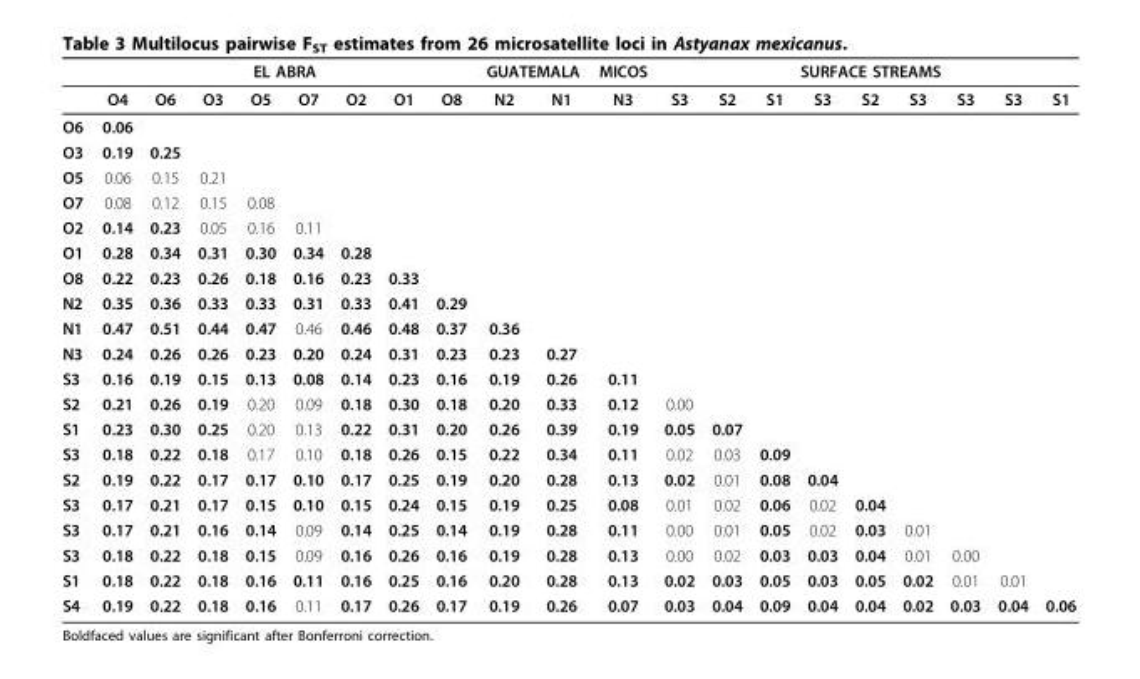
<table><thead><tr><td rowspan="2"></td><td colspan="8">EL ABRA</td><td colspan="2">GUATEMALA</td><td rowspan="2">MICOS N3</td><td colspan="9">SURFACE STREAMS</td></tr><tr><td>O4</td><td>O6</td><td>O3</td><td>O5</td><td>O7</td><td>O2</td><td>O1</td><td>O8</td><td>N2</td><td>N1</td><td>S3</td><td>S2</td><td>S1</td><td>S3</td><td>S2</td><td>S3</td><td>S3</td><td>S3</td><td>S1</td></tr></thead><tbody><tr><td>O6</td><td>0.06</td><td></td><td></td><td></td><td></td><td></td><td></td><td></td><td></td><td></td><td></td><td></td><td></td><td></td><td></td><td></td><td></td><td></td><td></td><td></td></tr><tr><td>O3</td><td>0.19</td><td>0.25</td><td></td><td></td><td></td><td></td><td></td><td></td><td></td><td></td><td></td><td></td><td></td><td></td><td></td><td></td><td></td><td></td><td></td><td></td></tr><tr><td>O5</td><td>0.06</td><td>0.15</td><td>0.21</td><td></td><td></td><td></td><td></td><td></td><td></td><td></td><td></td><td></td><td></td><td></td><td></td><td></td><td></td><td></td><td></td><td></td></tr><tr><td>O7</td><td>0.08</td><td>0.12</td><td>0.15</td><td>0.08</td><td></td><td></td><td></td><td></td><td></td><td></td><td></td><td></td><td></td><td></td><td></td><td></td><td></td><td></td><td></td><td></td></tr><tr><td>O2</td><td>0.14</td><td>0.23</td><td>0.05</td><td>0.16</td><td>0.11</td><td></td><td></td><td></td><td></td><td></td><td></td><td></td><td></td><td></td><td></td><td></td><td></td><td></td><td></td><td></td></tr><tr><td>O1</td><td>0.28</td><td>0.34</td><td>0.31</td><td>0.30</td><td>0.34</td><td>0.28</td><td></td><td></td><td></td><td></td><td></td><td></td><td></td><td></td><td></td><td></td><td></td><td></td><td></td><td></td></tr><tr><td>O8</td><td>0.22</td><td>0.23</td><td>0.26</td><td>0.18</td><td>0.16</td><td>0.23</td><td>0.33</td><td></td><td></td><td></td><td></td><td></td><td></td><td></td><td></td><td></td><td></td><td></td><td></td><td></td></tr><tr><td>N2</td><td>0.35</td><td>0.36</td><td>0.33</td><td>0.33</td><td>0.31</td><td>0.33</td><td>0.41</td><td>0.29</td><td></td><td></td><td></td><td></td><td></td><td></td><td></td><td></td><td></td><td></td><td></td><td></td></tr><tr><td>N1</td><td>0.47</td><td>0.51</td><td>0.44</td><td>0.47</td><td>0.46</td><td>0.46</td><td>0.48</td><td>0.37</td><td>0.36</td><td></td><td></td><td></td><td></td><td></td><td></td><td></td><td></td><td></td><td></td><td></td></tr><tr><td>N3</td><td>0.24</td><td>0.26</td><td>0.26</td><td>0.23</td><td>0.20</td><td>0.24</td><td>0.31</td><td>0.23</td><td>0.23</td><td>0.27</td><td></td><td></td><td></td><td></td><td></td><td></td><td></td><td></td><td></td><td></td></tr><tr><td>S3</td><td>0.16</td><td>0.19</td><td>0.15</td><td>0.13</td><td>0.08</td><td>0.14</td><td>0.23</td><td>0.16</td><td>0.19</td><td>0.26</td><td>0.11</td><td></td><td></td><td></td><td></td><td></td><td></td><td></td><td></td><td></td></tr><tr><td>S2</td><td>0.21</td><td>0.26</td><td>0.19</td><td>0.20</td><td>0.09</td><td>0.18</td><td>0.30</td><td>0.18</td><td>0.20</td><td>0.33</td><td>0.12</td><td>0.00</td><td></td><td></td><td></td><td></td><td></td><td></td><td></td><td></td></tr><tr><td>S1</td><td>0.23</td><td>0.30</td><td>0.25</td><td>0.20</td><td>0.13</td><td>0.22</td><td>0.31</td><td>0.20</td><td>0.26</td><td>0.39</td><td>0.19</td><td>0.05</td><td>0.07</td><td></td><td></td><td></td><td></td><td></td><td></td><td></td></tr><tr><td>S3</td><td>0.18</td><td>0.22</td><td>0.18</td><td>0.17</td><td>0.10</td><td>0.18</td><td>0.26</td><td>0.15</td><td>0.22</td><td>0.34</td><td>0.11</td><td>0.02</td><td>0.03</td><td>0.09</td><td></td><td></td><td></td><td></td><td></td><td></td></tr><tr><td>S2</td><td>0.19</td><td>0.22</td><td>0.17</td><td>0.17</td><td>0.10</td><td>0.17</td><td>0.25</td><td>0.19</td><td>0.20</td><td>0.28</td><td>0.13</td><td>0.02</td><td>0.01</td><td>0.08</td><td>0.04</td><td></td><td></td><td></td><td></td><td></td></tr><tr><td>S3</td><td>0.17</td><td>0.21</td><td>0.17</td><td>0.15</td><td>0.10</td><td>0.15</td><td>0.24</td><td>0.15</td><td>0.19</td><td>0.25</td><td>0.08</td><td>0.01</td><td>0.02</td><td>0.06</td><td>0.02</td><td>0.04</td><td></td><td></td><td></td><td></td></tr><tr><td>S3</td><td>0.17</td><td>0.21</td><td>0.16</td><td>0.14</td><td>0.09</td><td>0.14</td><td>0.25</td><td>0.14</td><td>0.19</td><td>0.28</td><td>0.11</td><td>0.00</td><td>0.01</td><td>0.05</td><td>0.02</td><td>0.03</td><td>0.01</td><td></td><td></td><td></td></tr><tr><td>S3</td><td>0.18</td><td>0.22</td><td>0.18</td><td>0.15</td><td>0.09</td><td>0.16</td><td>0.26</td><td>0.16</td><td>0.19</td><td>0.28</td><td>0.13</td><td>0.00</td><td>0.02</td><td>0.03</td><td>0.03</td><td>0.04</td><td>0.01</td><td>0.00</td><td></td><td></td></tr><tr><td>S1</td><td>0.18</td><td>0.22</td><td>0.18</td><td>0.16</td><td>0.11</td><td>0.16</td><td>0.25</td><td>0.16</td><td>0.20</td><td>0.28</td><td>0.13</td><td>0.02</td><td>0.03</td><td>0.05</td><td>0.03</td><td>0.05</td><td>0.02</td><td>0.01</td><td>0.01</td><td></td></tr><tr><td>S4</td><td>0.19</td><td>0.22</td><td>0.18</td><td>0.16</td><td>0.11</td><td>0.17</td><td>0.26</td><td>0.17</td><td>0.19</td><td>0.26</td><td>0.07</td><td>0.03</td><td>0.04</td><td>0.09</td><td>0.04</td><td>0.04</td><td>0.02</td><td>0.03</td><td>0.04</td><td>0.06</td></tr></tbody></table>